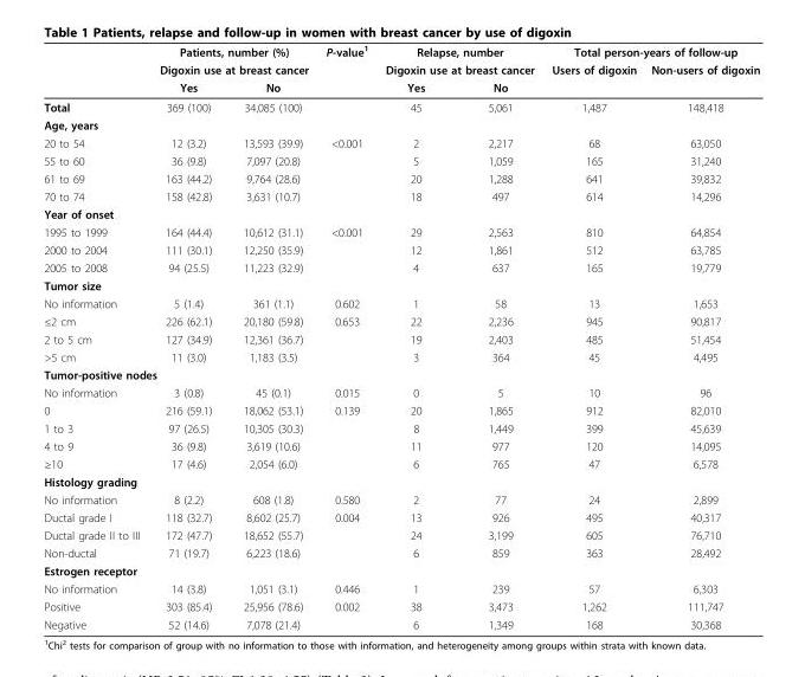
<table><thead><tr><td rowspan="3"></td><td rowspan="2" colspan="2">Patients, number (%) Digoxin use at breast cancer</td><td rowspan="3">P-value<sup>1</sup></td><td rowspan="2" colspan="2">Relapse, number Digoxin use at breast cancer</td><td colspan="2">Total person-years of follow-up</td></tr><tr><td rowspan="2">Users of digoxin</td><td rowspan="2">Non-users of digoxin</td></tr><tr><td>Yes</td><td>No</td><td>Yes</td><td>No</td></tr></thead><tbody><tr><td>Total</td><td>369 (100)</td><td>34,085 (100)</td><td></td><td>45</td><td>5,061</td><td>1,487</td><td>148,418</td></tr><tr><td colspan="8">Age, years</td></tr><tr><td>20 to 54</td><td>12 (3.2)</td><td>13,593 (39.9)</td><td>&lt;0.001</td><td>2</td><td>2,217</td><td>68</td><td>63,050</td></tr><tr><td>55 to 60</td><td>36 (9.8)</td><td>7,097 (20.8)</td><td></td><td>5</td><td>1,059</td><td>165</td><td>31,240</td></tr><tr><td>61 to 69</td><td>163 (44.2)</td><td>9,764 (28.6)</td><td></td><td>20</td><td>1,288</td><td>641</td><td>39,832</td></tr><tr><td>70 to 74</td><td>158 (42.8)</td><td>3,631 (10.7)</td><td></td><td>18</td><td>497</td><td>614</td><td>14,296</td></tr><tr><td colspan="8">Year of onset</td></tr><tr><td>1995 to 1999</td><td>164 (44.4)</td><td>10,612 (31.1)</td><td>&lt;0.001</td><td>29</td><td>2,563</td><td>810</td><td>64,854</td></tr><tr><td>2000 to 2004</td><td>111 (30.1)</td><td>12,250 (35.9)</td><td></td><td>12</td><td>1,861</td><td>512</td><td>63,785</td></tr><tr><td>2005 to 2008</td><td>94 (25.5)</td><td>11,223 (32.9)</td><td></td><td>4</td><td>637</td><td>165</td><td>19,779</td></tr><tr><td colspan="8">Tumor size</td></tr><tr><td>No information</td><td>5 (1.4)</td><td>361 (1.1)</td><td>0.602</td><td>1</td><td>58</td><td>13</td><td>1,653</td></tr><tr><td>≤2 cm</td><td>226 (62.1)</td><td>20,180 (59.8)</td><td>0.653</td><td>22</td><td>2,236</td><td>945</td><td>90,817</td></tr><tr><td>2 to 5 cm</td><td>127 (34.9)</td><td>12,361 (36.7)</td><td></td><td>19</td><td>2,403</td><td>485</td><td>51,454</td></tr><tr><td>&gt;5 cm</td><td>11 (3.0)</td><td>1,183 (3.5)</td><td></td><td>3</td><td>364</td><td>45</td><td>4,495</td></tr><tr><td colspan="8">Tumor-positive nodes</td></tr><tr><td>No information</td><td>3 (0.8)</td><td>45 (0.1)</td><td>0.015</td><td>0</td><td>5</td><td>10</td><td>96</td></tr><tr><td>0</td><td>216 (59.1)</td><td>18,062 (53.1)</td><td>0.139</td><td>20</td><td>1,865</td><td>912</td><td>82,010</td></tr><tr><td>1 to 3</td><td>97 (26.5)</td><td>10,305 (30.3)</td><td></td><td>8</td><td>1,449</td><td>399</td><td>45,639</td></tr><tr><td>4 to 9</td><td>36 (9.8)</td><td>3,619 (10.6)</td><td></td><td>11</td><td>977</td><td>120</td><td>14,095</td></tr><tr><td>≥10</td><td>17 (4.6)</td><td>2,054 (6.0)</td><td></td><td>6</td><td>765</td><td>47</td><td>6,578</td></tr><tr><td colspan="8">Histology grading</td></tr><tr><td>No information</td><td>8 (2.2)</td><td>608 (1.8)</td><td>0.580</td><td>2</td><td>77</td><td>24</td><td>2,899</td></tr><tr><td>Ductal grade I</td><td>118 (32.7)</td><td>8,602 (25.7)</td><td>0.004</td><td>13</td><td>926</td><td>495</td><td>40,317</td></tr><tr><td>Ductal grade II to III</td><td>172 (47.7)</td><td>18,652 (55.7)</td><td></td><td>24</td><td>3,199</td><td>605</td><td>76,710</td></tr><tr><td>Non-ductal</td><td>71 (19.7)</td><td>6,223 (18.6)</td><td></td><td>6</td><td>859</td><td>363</td><td>28,492</td></tr><tr><td colspan="8">Estrogen receptor</td></tr><tr><td>No information</td><td>14 (3.8)</td><td>1,051 (3.1)</td><td>0.446</td><td>1</td><td>239</td><td>57</td><td>6,303</td></tr><tr><td>Positive</td><td>303 (85.4)</td><td>25,956 (78.6)</td><td>0.002</td><td>38</td><td>3,473</td><td>1,262</td><td>111,747</td></tr><tr><td>Negative</td><td>52 (14.6)</td><td>7,078 (21.4)</td><td></td><td>6</td><td>1,349</td><td>168</td><td>30,368</td></tr></tbody></table>